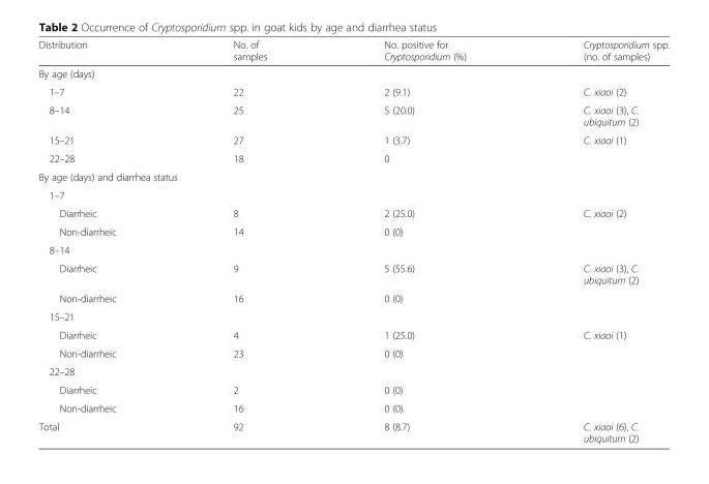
<table><thead><tr><td>Distribution</td><td>No. of samples</td><td>No. positive for Cryptosporidium (%)</td><td>Cryptosporidium spp. (no. of samples)</td></tr></thead><tbody><tr><td colspan="4">By age (days)</td></tr><tr><td>1–7</td><td>22</td><td>2 (9.1)</td><td>C. xiaoi (2)</td></tr><tr><td>8–14</td><td>25</td><td>5 (20.0)</td><td>C. xiaoi (3), C. ubiquitum (2)</td></tr><tr><td>15–21</td><td>27</td><td>1 (3.7)</td><td>C. xiaoi (1)</td></tr><tr><td>22–28</td><td>18</td><td>0</td><td></td></tr><tr><td colspan="4">By age (days) and diarrhea status</td></tr><tr><td colspan="4">1–7</td></tr><tr><td>Diarrheic</td><td>8</td><td>2 (25.0)</td><td>C. xiaoi (2)</td></tr><tr><td>Non-diarrheic</td><td>14</td><td>0 (0)</td><td></td></tr><tr><td colspan="4">8–14</td></tr><tr><td>Diarrheic</td><td>9</td><td>5 (55.6)</td><td>C. xiaoi (3), C. ubiquitum (2)</td></tr><tr><td>Non-diarrheic</td><td>16</td><td>0 (0)</td><td></td></tr><tr><td colspan="4">15–21</td></tr><tr><td>Diarrheic</td><td>4</td><td>1 (25.0)</td><td>C. xiaoi (1)</td></tr><tr><td>Non-diarrheic</td><td>23</td><td>0 (0)</td><td></td></tr><tr><td colspan="4">22–28</td></tr><tr><td>Diarrheic</td><td>2</td><td>0 (0)</td><td></td></tr><tr><td>Non-diarrheic</td><td>16</td><td>0 (0)</td><td></td></tr><tr><td>Total</td><td>92</td><td>8 (8.7)</td><td>C. xiaoi (6), C. ubiquitum (2)</td></tr></tbody></table>